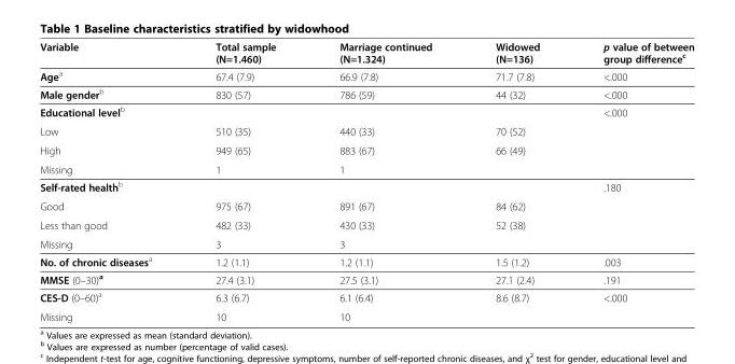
<table><thead><tr><td>Variable</td><td>Total sample (N=1.460)</td><td>Marriage continued (N=1.324)</td><td>Widowed (N=136)</td><td>p value of between group difference<sup>c</sup></td></tr></thead><tbody><tr><td>Age<sup>a</sup></td><td>67.4 (7.9)</td><td>66.9 (7.8)</td><td>71.7 (7.8)</td><td>&lt;.000</td></tr><tr><td>Male gender<sup>b</sup></td><td>830 (57)</td><td>786 (59)</td><td>44 (32)</td><td>&lt;.000</td></tr><tr><td>Educational level<sup>b</sup></td><td></td><td></td><td></td><td>&lt;.000</td></tr><tr><td>Low</td><td>510 (35)</td><td>440 (33)</td><td>70 (52)</td><td></td></tr><tr><td>High</td><td>949 (65)</td><td>883 (67)</td><td>66 (49)</td><td></td></tr><tr><td>Missing</td><td>1</td><td>1</td><td></td><td></td></tr><tr><td>Self-rated health<sup>b</sup></td><td></td><td></td><td></td><td>.180</td></tr><tr><td>Good</td><td>975 (67)</td><td>891 (67)</td><td>84 (62)</td><td></td></tr><tr><td>Less than good</td><td>482 (33)</td><td>430 (33)</td><td>52 (38)</td><td></td></tr><tr><td>Missing</td><td>3</td><td>3</td><td></td><td></td></tr><tr><td>No. of chronic diseases<sup>a</sup></td><td>1.2 (1.1)</td><td>1.2 (1.1)</td><td>1.5 (1.2)</td><td>.003</td></tr><tr><td>MMSE (0–30)<sup>a</sup></td><td>27.4 (3.1)</td><td>27.5 (3.1)</td><td>27.1 (2.4)</td><td>.191</td></tr><tr><td>CES-D (0–60)<sup>a</sup></td><td>6.3 (6.7)</td><td>6.1 (6.4)</td><td>8.6 (8.7)</td><td>&lt;.000</td></tr><tr><td>Missing</td><td>10</td><td>10</td><td></td><td></td></tr></tbody></table>